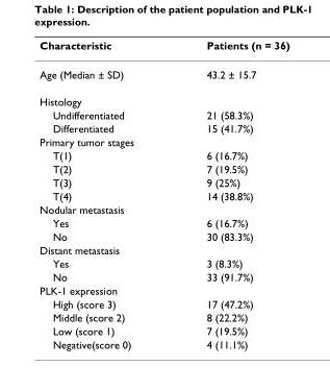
<table><thead><tr><td>Characteristic</td><td>Patients (n = 36)</td></tr></thead><tbody><tr><td>Age (Median ± SD)</td><td>43.2 ± 15.7</td></tr><tr><td colspan="2">Histology</td></tr><tr><td>Undifferentiated</td><td>21 (58.3%)</td></tr><tr><td>Differentiated</td><td>15 (41.7%)</td></tr><tr><td colspan="2">Primary tumor stages</td></tr><tr><td>T(1)</td><td>6 (16.7%)</td></tr><tr><td>T(2)</td><td>7 (19.5%)</td></tr><tr><td>T(3)</td><td>9 (25%)</td></tr><tr><td>T(4)</td><td>14 (38.8%)</td></tr><tr><td colspan="2">Nodular metastasis</td></tr><tr><td>Yes</td><td>6 (16.7%)</td></tr><tr><td>No</td><td>30 (83.3%)</td></tr><tr><td colspan="2">Distant metastasis</td></tr><tr><td>Yes</td><td>3 (8.3%)</td></tr><tr><td>No</td><td>33 (91.7%)</td></tr><tr><td colspan="2">PLK-1 expression</td></tr><tr><td>High (score 3)</td><td>17 (47.2%)</td></tr><tr><td>Middle (score 2)</td><td>8 (22.2%)</td></tr><tr><td>Low (score 1)</td><td>7 (19.5%)</td></tr><tr><td>Negative(score 0)</td><td>4 (11.1%)</td></tr></tbody></table>